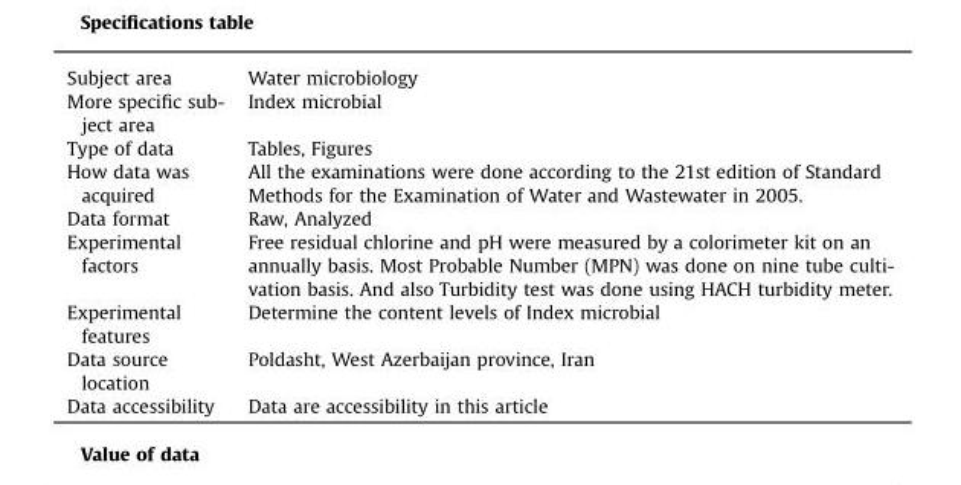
<table><tbody><tr><td>Subject area</td><td>Water microbiology</td></tr><tr><td>More specific sub- ject area</td><td>Index microbial</td></tr><tr><td>Type of data</td><td>Tables, Figures</td></tr><tr><td>How data was acquired</td><td>All the examinations were done according to the 21st edition of Standard Methods for the Examination of Water and Wastewater in 2005.</td></tr><tr><td>Data format</td><td>Raw, Analyzed</td></tr><tr><td>Experimental factors</td><td>Free residual chlorine and pH were measured by a colorimeter kit on an annually basis. Most Probable Number (MPN) was done on nine tube culti- vation basis. And also Turbidity test was done using HACH turbidity meter.</td></tr><tr><td>Experimental features</td><td>Determine the content levels of Index microbial</td></tr><tr><td>Data source location</td><td>Poldasht, West Azerbaijan province, Iran</td></tr><tr><td>Data accessibility</td><td>Data are accessibility in this article</td></tr></tbody></table>